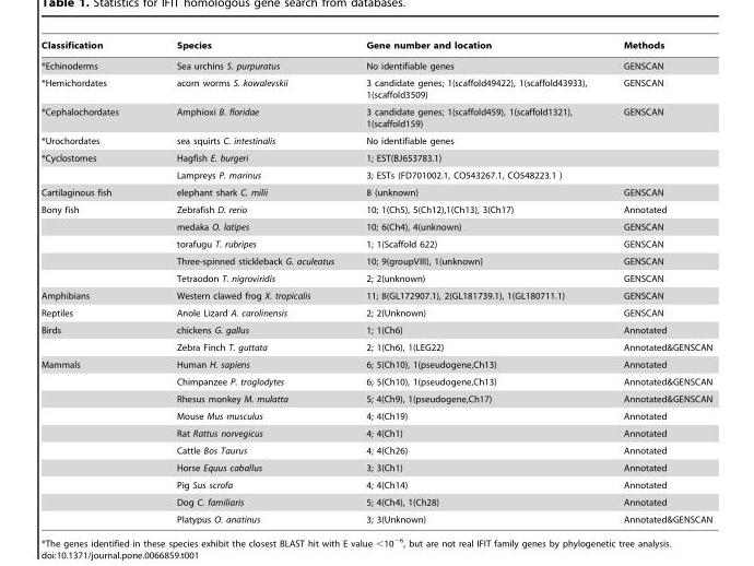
<table><thead><tr><td>Classification</td><td>Species</td><td>Gene number and location</td><td>Methods</td></tr></thead><tbody><tr><td>*Echinoderms</td><td>Sea urchins S. purpuratus</td><td>No identifiable genes</td><td>GENSCAN</td></tr><tr><td>*Hemichordates</td><td>acorn worms S. kowalevskii</td><td>3 candidate genes; 1(scaffold49422), 1(scaffold43933), 1(scaffold3509)</td><td>GENSCAN</td></tr><tr><td>*Cephalochordates</td><td>Amphioxi B. floridae</td><td>3 candidate genes; 1(scaffold459), 1(scaffold1321), 1(scaffold159)</td><td>GENSCAN</td></tr><tr><td>*Urochordates</td><td>sea squirts C. intestinalis</td><td>No identifiable genes</td><td></td></tr><tr><td rowspan="2">*Cyclostomes</td><td>Hagfish E. burgeri</td><td>1; EST(BJ653783.1)</td><td></td></tr><tr><td>Lampreys P. marinus</td><td>3; ESTs (FD701002.1, CO543267.1, CO548223.1 )</td><td></td></tr><tr><td>Cartilaginous fish</td><td>elephant shark C. milii</td><td>8 (unknown)</td><td>GENSCAN</td></tr><tr><td rowspan="5">Bony fish</td><td>Zebrafish D. rerio</td><td>10; 1(Ch5), 5(Ch12),1(Ch13), 3(Ch17)</td><td>Annotated</td></tr><tr><td>medaka O. latipes</td><td>10; 6(Ch4), 4(unknown)</td><td>GENSCAN</td></tr><tr><td>torafugu T. rubripes</td><td>1; 1(Scaffold 622)</td><td>GENSCAN</td></tr><tr><td>Three-spinned stickleback G. aculeatus</td><td>10; 9(groupVIII), 1(unknown)</td><td>GENSCAN</td></tr><tr><td>Tetraodon T. nigroviridis</td><td>2; 2(unknown)</td><td>GENSCAN</td></tr><tr><td>Amphibians</td><td>Western clawed frog X. tropicalis</td><td>11; 8(GL172907.1), 2(GL181739.1), 1(GL180711.1)</td><td>GENSCAN</td></tr><tr><td>Reptiles</td><td>Anole Lizard A. carolinensis</td><td>2; 2(Unknown)</td><td>GENSCAN</td></tr><tr><td rowspan="2">Birds</td><td>chickens G. gallus</td><td>1; 1(Ch6)</td><td>Annotated</td></tr><tr><td>Zebra Finch T. guttata</td><td>2; 1(Ch6), 1(LEG22)</td><td>Annotated&amp;GENSCAN</td></tr><tr><td rowspan="10">Mammals</td><td>Human H. sapiens</td><td>6; 5(Ch10), 1(pseudogene,Ch13)</td><td>Annotated</td></tr><tr><td>Chimpanzee P. troglodytes</td><td>6; 5(Ch10), 1(pseudogene,Ch13)</td><td>Annotated&amp;GENSCAN</td></tr><tr><td>Rhesus monkey M. mulatta</td><td>5; 4(Ch9), 1(pseudogene,Ch17)</td><td>Annotated&amp;GENSCAN</td></tr><tr><td>Mouse Mus musculus</td><td>4; 4(Ch19)</td><td>Annotated</td></tr><tr><td>Rat Rattus norvegicus</td><td>4; 4(Ch1)</td><td>Annotated</td></tr><tr><td>Cattle Bos Taurus</td><td>4; 4(Ch26)</td><td>Annotated</td></tr><tr><td>Horse Equus caballus</td><td>3; 3(Ch1)</td><td>Annotated</td></tr><tr><td>Pig Sus scrofa</td><td>4; 4(Ch14)</td><td>Annotated</td></tr><tr><td>Dog C. familiaris</td><td>5; 4(Ch4), 1(Ch28)</td><td>Annotated</td></tr><tr><td>Platypus O. anatinus</td><td>3; 3(Unknown)</td><td>Annotated&amp;GENSCAN</td></tr></tbody></table>